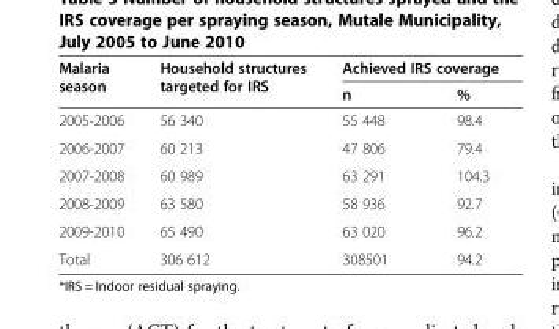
<table><thead><tr><td rowspan="2">Malaria season</td><td rowspan="2">Household structures targeted for IRS</td><td colspan="2">Achieved IRS coverage</td></tr><tr><td>n</td><td>%</td></tr></thead><tbody><tr><td>2005-2006</td><td>56 340</td><td>55 448</td><td>98.4</td></tr><tr><td>2006-2007</td><td>60 213</td><td>47 806</td><td>79.4</td></tr><tr><td>2007-2008</td><td>60 989</td><td>63 291</td><td>104.3</td></tr><tr><td>2008-2009</td><td>63 580</td><td>58 936</td><td>92.7</td></tr><tr><td>2009-2010</td><td>65 490</td><td>63 020</td><td>96.2</td></tr><tr><td>Total</td><td>306 612</td><td>308501</td><td>94.2</td></tr></tbody></table>